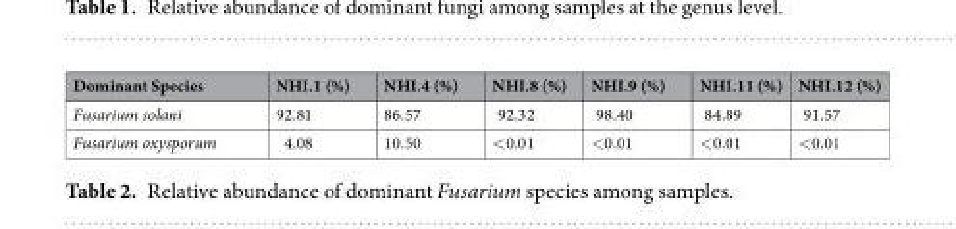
<table><thead><tr><td>Dominant Species</td><td>NHI.1 (%)</td><td>NHI.4 (%)</td><td>NHI.8 (%)</td><td>NHI.9 (%)</td><td>NHI.11 (%)</td><td>NHI.12 (%)</td></tr></thead><tbody><tr><td>Fusarium solani</td><td>92.81</td><td>86.57</td><td>92.32</td><td>98.40</td><td>84.89</td><td>91.57</td></tr><tr><td>Fusarium oxysporum</td><td>4.08</td><td>10.50</td><td>&lt;0.01</td><td>&lt;0.01</td><td>&lt;0.01</td><td>&lt;0.01</td></tr></tbody></table>